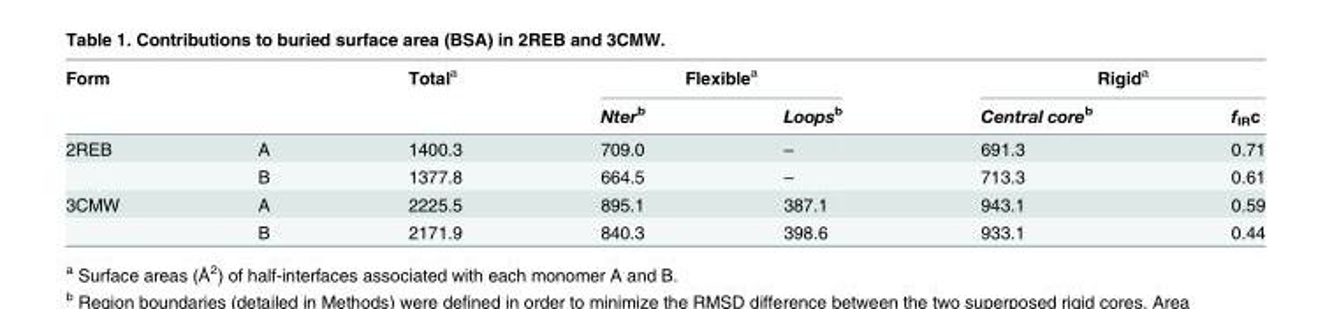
<table><thead><tr><td rowspan="2">Form</td><td rowspan="2"></td><td rowspan="2">Total<sup>a</sup></td><td colspan="2">Flexible<sup>a</sup></td><td colspan="2">Rigid<sup>a</sup></td></tr><tr><td>Nter<sup>b</sup></td><td>Loops<sup>b</sup></td><td>Central core<sup>b</sup></td><td>f<sub>IR</sub>c</td></tr></thead><tbody><tr><td rowspan="2">2REB</td><td>A</td><td>1400.3</td><td>709.0</td><td>–</td><td>691.3</td><td>0.71</td></tr><tr><td>B</td><td>1377.8</td><td>664.5</td><td>–</td><td>713.3</td><td>0.61</td></tr><tr><td rowspan="2">3CMW</td><td>A</td><td>2225.5</td><td>895.1</td><td>387.1</td><td>943.1</td><td>0.59</td></tr><tr><td>B</td><td>2171.9</td><td>840.3</td><td>398.6</td><td>933.1</td><td>0.44</td></tr></tbody></table>